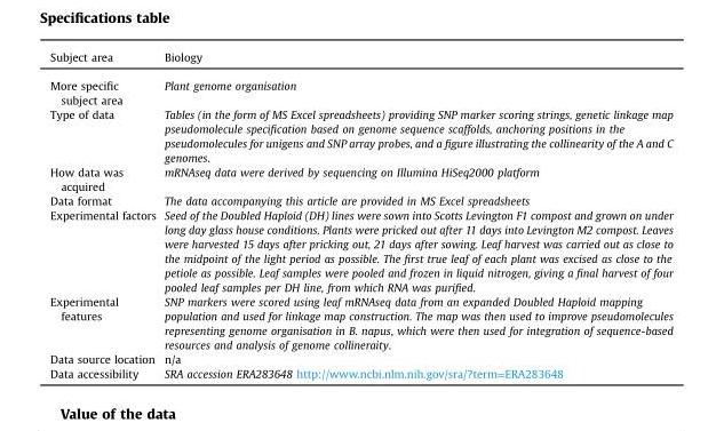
<table><tbody><tr><td>Subject area</td><td>Biology</td></tr><tr><td>More specific subject area</td><td>Plant genome organisation</td></tr><tr><td>Type of data</td><td>Tables (in the form of MS Excel spreadsheets) providing SNP marker scoring strings, genetic linkage map pseudomolecule specification based on genome sequence scaffolds, anchoring positions in the pseudomolecules for unigens and SNP array probes, and a figure illustrating the collinearity of the A and C genomes.</td></tr><tr><td>How data was acquired</td><td>mRNAseq data were derived by sequencing on Illumina HiSeq2000 platform</td></tr><tr><td>Data format</td><td>The data accompanying this article are provided in MS Excel spreadsheets</td></tr><tr><td>Experimental factors</td><td>Seed of the Doubled Haploid (DH) lines were sown into Scotts Levington F1 compost and grown on under long day glass house conditions. Plants were pricked out after 11 days into Levington M2 compost. Leaves were harvested 15 days after pricking out, 21 days after sowing. Leaf harvest was carried out as close to the midpoint of the light period as possible. The first true leaf of each plant was excised as close to the petiole as possible. Leaf samples were pooled and frozen in liquid nitrogen, giving a final harvest of four pooled leaf samples per DH line, from which RNA was purified.</td></tr><tr><td>Experimental features</td><td>SNP markers were scored using leaf mRNAseq data from an expanded Doubled Haploid mapping population and used for linkage map construction. The map was then used to improve pseudomolecules representing genome organisation in B. napus, which were then used for integration of sequence-based resources and analysis of genome collineraity.</td></tr><tr><td>Data source location</td><td>n/a</td></tr><tr><td>Data accessibility</td><td>SRA accession ERA283648 http://www.ncbi.nlm.nih.gov/sra/?term=ERA283648</td></tr></tbody></table>